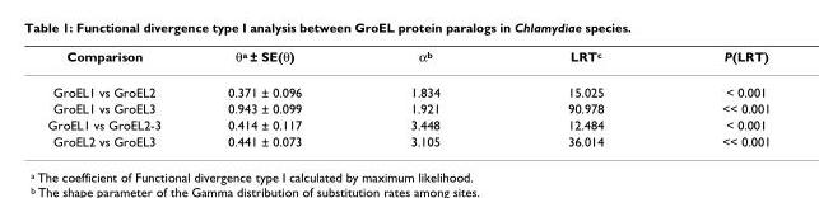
<table><thead><tr><td>Comparison</td><td>θ<sup>a</sup> ± SE(θ)</td><td>α<sup>b</sup></td><td>LRT<sup>c</sup></td><td>P(LRT)</td></tr></thead><tbody><tr><td>GroEL1 vs GroEL2</td><td>0.371 ± 0.096</td><td>1.834</td><td>15.025</td><td>&lt; 0.001</td></tr><tr><td>GroEL1 vs GroEL3</td><td>0.943 ± 0.099</td><td>1.921</td><td>90.978</td><td>&lt;&lt; 0.001</td></tr><tr><td>GroEL1 vs GroEL2-3</td><td>0.414 ± 0.117</td><td>3.448</td><td>12.484</td><td>&lt; 0.001</td></tr><tr><td>GroEL2 vs GroEL3</td><td>0.441 ± 0.073</td><td>3.105</td><td>36.014</td><td>&lt;&lt; 0.001</td></tr></tbody></table>